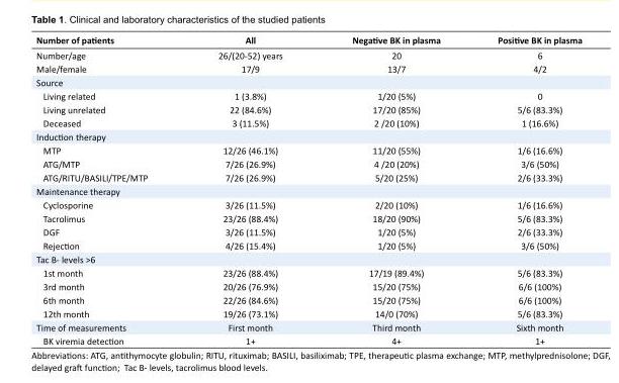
<table><tbody><tr><td>Number of patients</td><td>All</td><td>Negative BK in plasma</td><td>Positive BK in plasma</td></tr><tr><td>Number/age</td><td>26/(20-52) years</td><td>20</td><td>6</td></tr><tr><td>Male/female</td><td>17/9</td><td>13/7</td><td>4/2</td></tr><tr><td colspan="4">Source</td></tr><tr><td>Living related</td><td>1 (3.8%)</td><td>1/20 (5%)</td><td>0</td></tr><tr><td>Living unrelated</td><td>22 (84.6%)</td><td>17/20 (85%)</td><td>5/6 (83.3%)</td></tr><tr><td>Deceased</td><td>3 (11.5%)</td><td>2 /20 (10%)</td><td>1 (16.6%)</td></tr><tr><td colspan="4">Induction therapy</td></tr><tr><td>MTP</td><td>12/26 (46.1%)</td><td>11/20 (55%)</td><td>1/6 (16.6%)</td></tr><tr><td>ATG/MTP</td><td>7/26 (26.9%)</td><td>4 /20 (20%)</td><td>3/6 (50%)</td></tr><tr><td>ATG/RITU/BASILI/TPE/MTP</td><td>7/26 (26.9%)</td><td>5/20 (25%)</td><td>2/6 (33.3%)</td></tr><tr><td colspan="4">Maintenance therapy</td></tr><tr><td>Cyclosporine</td><td>3/26 (11.5%)</td><td>2/20 (10%)</td><td>1/6 (16.6%)</td></tr><tr><td>Tacrolimus</td><td>23/26 (88.4%)</td><td>18/20 (90%)</td><td>5/6 (83.3%)</td></tr><tr><td>DGF</td><td>3/26 (11.5%)</td><td>1/20 (5%)</td><td>2/6 (33.3%)</td></tr><tr><td>Rejection</td><td>4/26 (15.4%)</td><td>1/20 (5%)</td><td>3/6 (50%)</td></tr><tr><td colspan="4">Tac B- levels &gt;6</td></tr><tr><td>1st month</td><td>23/26 (88.4%)</td><td>17/19 (89.4%)</td><td>5/6 (83.3%)</td></tr><tr><td>3rd month</td><td>20/26 (76.9%)</td><td>15/20 (75%)</td><td>6/6 (100%)</td></tr><tr><td>6th month</td><td>22/26 (84.6%)</td><td>15/20 (75%)</td><td>6/6 (100%)</td></tr><tr><td>12th month</td><td>19/26 (73.1%)</td><td>14/0 (70%)</td><td>5/6 (83.3%)</td></tr><tr><td>Time of measurements</td><td>First month</td><td>Third month</td><td>Sixth month</td></tr><tr><td>BK viremia detection</td><td>1+</td><td>4+</td><td>1+</td></tr></tbody></table>